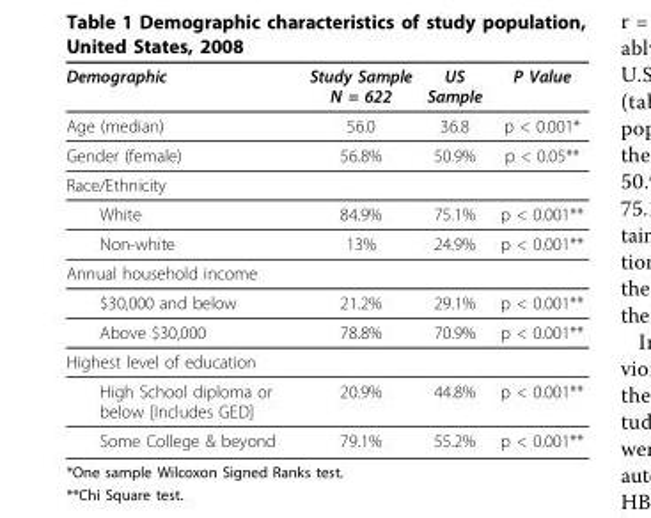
<table><thead><tr><td>Demographic</td><td>Study Sample N = 622</td><td>US Sample</td><td>P Value</td></tr></thead><tbody><tr><td>Age (median)</td><td>56.0</td><td>36.8</td><td>p &lt; 0.001*</td></tr><tr><td>Gender (female)</td><td>56.8%</td><td>50.9%</td><td>p &lt; 0.05**</td></tr><tr><td colspan="4">Race/Ethnicity</td></tr><tr><td>White</td><td>84.9%</td><td>75.1%</td><td>p &lt; 0.001**</td></tr><tr><td>Non-white</td><td>13%</td><td>24.9%</td><td>p &lt; 0.001**</td></tr><tr><td colspan="4">Annual household income</td></tr><tr><td>$30,000 and below</td><td>21.2%</td><td>29.1%</td><td>p &lt; 0.001**</td></tr><tr><td>Above $30,000</td><td>78.8%</td><td>70.9%</td><td>p &lt; 0.001**</td></tr><tr><td colspan="4">Highest level of education</td></tr><tr><td>High School diploma or below [Includes GED]</td><td>20.9%</td><td>44.8%</td><td>p &lt; 0.001**</td></tr><tr><td>Some College &amp; beyond</td><td>79.1%</td><td>55.2%</td><td>p &lt; 0.001**</td></tr></tbody></table>